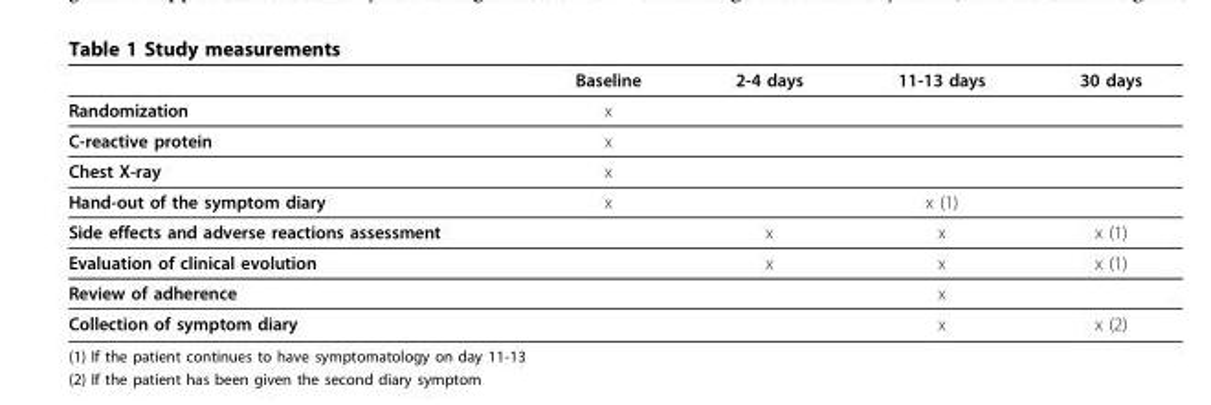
<table><thead><tr><td></td><td>Baseline</td><td>2-4 days</td><td>11-13 days</td><td>30 days</td></tr></thead><tbody><tr><td>Randomization</td><td>x</td><td></td><td></td><td></td></tr><tr><td>C-reactive protein</td><td>x</td><td></td><td></td><td></td></tr><tr><td>Chest X-ray</td><td>x</td><td></td><td></td><td></td></tr><tr><td>Hand-out of the symptom diary</td><td>x</td><td></td><td>x (1)</td><td></td></tr><tr><td>Side effects and adverse reactions assessment</td><td></td><td>x</td><td>x</td><td>x (1)</td></tr><tr><td>Evaluation of clinical evolution</td><td></td><td>x</td><td>x</td><td>x (1)</td></tr><tr><td>Review of adherence</td><td></td><td></td><td>x</td><td></td></tr><tr><td>Collection of symptom diary</td><td></td><td></td><td>x</td><td>x (2)</td></tr></tbody></table>